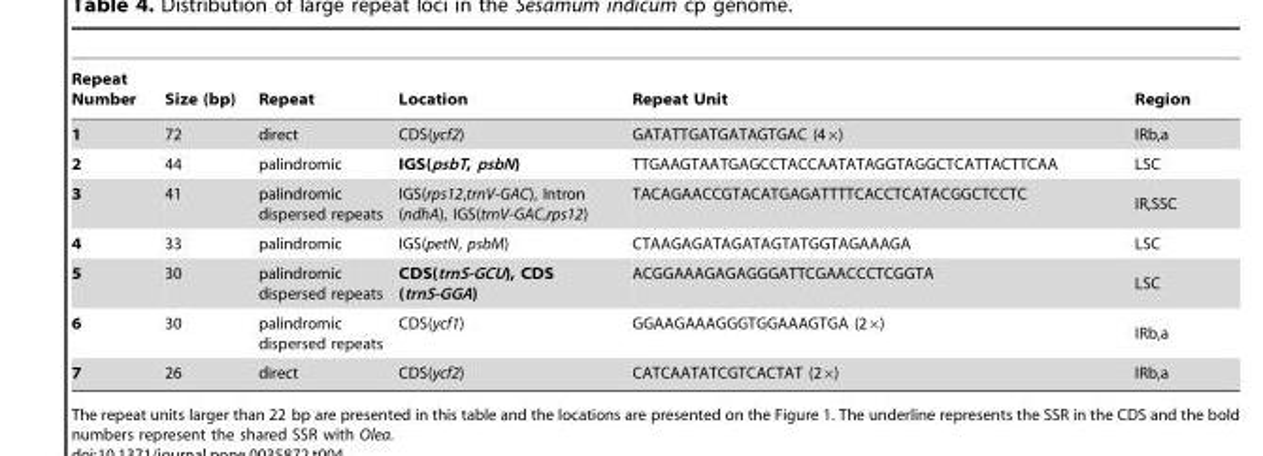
<table><thead><tr><td>Repeat Number</td><td>Size (bp)</td><td>Repeat</td><td>Location</td><td>Repeat Unit</td><td>Region</td></tr></thead><tbody><tr><td>1</td><td>72</td><td>direct</td><td>CDS(ycf2)</td><td>GATATTGATGATAGTGAC (4×)</td><td>IRb,a</td></tr><tr><td>2</td><td>44</td><td>palindromic</td><td>IGS(psbT, psbN)</td><td>TTGAAGTAATGAGCCTACCAATATAGGTAGGCTCATTACTTCAA</td><td>LSC</td></tr><tr><td>3</td><td>41</td><td>palindromic dispersed repeats</td><td>IGS(rps12,trnV-GAC), Intron (ndhA), IGS(trnV-GAC,rps12)</td><td>TACAGAACCGTACATGAGATTTTCACCTCATACGGCTCCTC</td><td>IR,SSC</td></tr><tr><td>4</td><td>33</td><td>palindromic</td><td>IGS(petN, psbM)</td><td>CTAAGAGATAGATAGTATGGTAGAAAGA</td><td>LSC</td></tr><tr><td>5</td><td>30</td><td>palindromic dispersed repeats</td><td>CDS(trnS-GCU), CDS (trnS-GGA)</td><td>ACGGAAAGAGAGGGATTCGAACCCTCGGTA</td><td>LSC</td></tr><tr><td>6</td><td>30</td><td>palindromic dispersed repeats</td><td>CDS(ycf1)</td><td>GGAAGAAAGGGTGGAAAGTGA (2×)</td><td>IRb,a</td></tr><tr><td>7</td><td>26</td><td>direct</td><td>CDS(ycf2)</td><td>CATCAATATCGTCACTAT (2×)</td><td>IRb,a</td></tr></tbody></table>